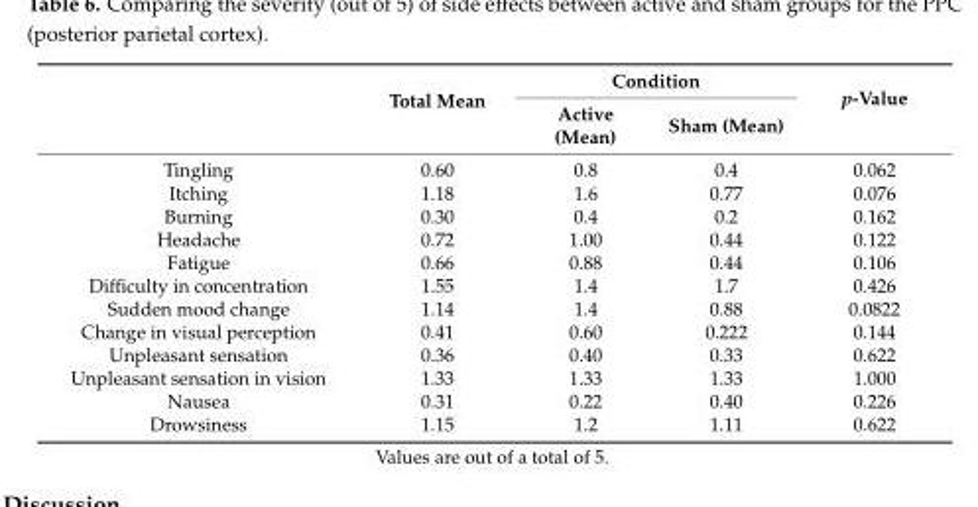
<table><thead><tr><td rowspan="2"></td><td rowspan="2">Total Mean</td><td colspan="2">Condition</td><td rowspan="2">p-Value</td></tr><tr><td>Active (Mean)</td><td>Sham (Mean)</td></tr></thead><tbody><tr><td>Tingling</td><td>0.60</td><td>0.8</td><td>0.4</td><td>0.062</td></tr><tr><td>Itching</td><td>1.18</td><td>1.6</td><td>0.77</td><td>0.076</td></tr><tr><td>Burning</td><td>0.30</td><td>0.4</td><td>0.2</td><td>0.162</td></tr><tr><td>Headache</td><td>0.72</td><td>1.00</td><td>0.44</td><td>0.122</td></tr><tr><td>Fatigue</td><td>0.66</td><td>0.88</td><td>0.44</td><td>0.106</td></tr><tr><td>Difficulty in concentration</td><td>1.55</td><td>1.4</td><td>1.7</td><td>0.426</td></tr><tr><td>Sudden mood change</td><td>1.14</td><td>1.4</td><td>0.88</td><td>0.0822</td></tr><tr><td>Change in visual perception</td><td>0.41</td><td>0.60</td><td>0.222</td><td>0.144</td></tr><tr><td>Unpleasant sensation</td><td>0.36</td><td>0.40</td><td>0.33</td><td>0.622</td></tr><tr><td>Unpleasant sensation in vision</td><td>1.33</td><td>1.33</td><td>1.33</td><td>1.000</td></tr><tr><td>Nausea</td><td>0.31</td><td>0.22</td><td>0.40</td><td>0.226</td></tr><tr><td>Drowsiness</td><td>1.15</td><td>1.2</td><td>1.11</td><td>0.622</td></tr></tbody></table>